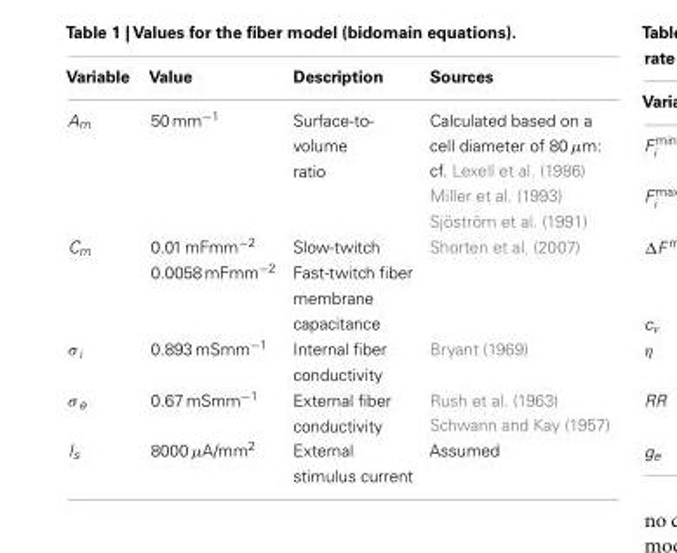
<table><thead><tr><td>Variable</td><td>Value</td><td>Description</td><td>Sources</td></tr></thead><tbody><tr><td rowspan="3">A<sub>m</sub></td><td>50 mm<sup>−1</sup></td><td>Surface-to- volume ratio</td><td>Calculated based on a cell diameter of 80 µm: cf. Lexell et al. (1986)</td></tr><tr><td></td><td></td><td>Miller et al. (1993)</td></tr><tr><td></td><td></td><td>Sjöström et al. (1991)</td></tr><tr><td rowspan="2">C<sub>m</sub></td><td>0.01 mFmm<sup>−2</sup></td><td>Slow-twitch</td><td>Shorten et al. (2007)</td></tr><tr><td>0.0058 mFmm<sup>−2</sup></td><td>Fast-twitch fiber membrane capacitance</td><td></td></tr><tr><td>σ <sub>i</sub></td><td>0.893 mSmm<sup>−1</sup></td><td>Internal fiber conductivity</td><td>Bryant (1969)</td></tr><tr><td>σ <sub>e</sub></td><td>0.67 mSmm<sup>−1</sup></td><td>External fiber conductivity</td><td>Rush et al. (1963) Schwann and Kay (1957)</td></tr><tr><td>I<sub>s</sub></td><td>8000 µA/mm<sup>2</sup></td><td>External stimulus current</td><td>Assumed</td></tr></tbody></table>